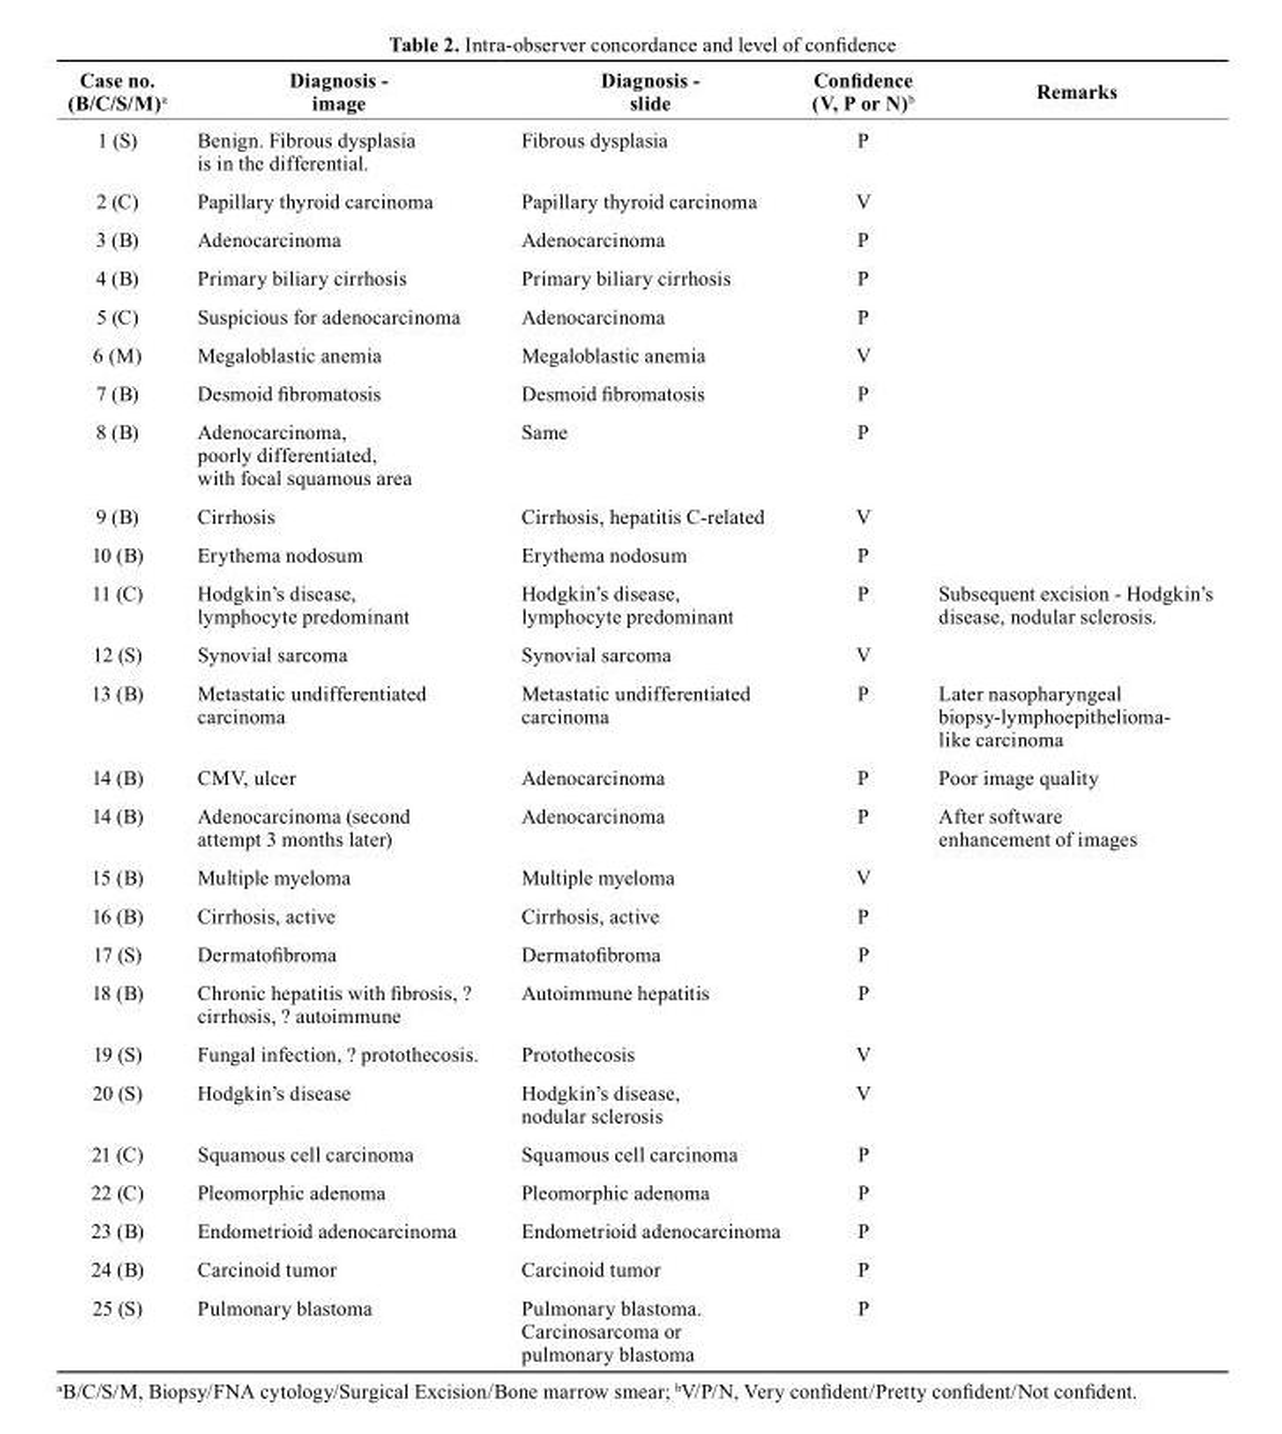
<table><thead><tr><td>case no. (b/c/s/M)<sup>a</sup></td><td>diagnosis - image</td><td>diagnosis - slide</td><td>Confidence (V, P or n)<sup>b</sup></td><td>remarks</td></tr></thead><tbody><tr><td>1 (S)</td><td>Benign. Fibrous dysplasia is in the differential.</td><td>Fibrous dysplasia</td><td>P</td><td></td></tr><tr><td>2 (C)</td><td>Papillary thyroid carcinoma</td><td>Papillary thyroid carcinoma</td><td>V</td><td></td></tr><tr><td>3 (B)</td><td>Adenocarcinoma</td><td>Adenocarcinoma</td><td>P</td><td></td></tr><tr><td>4 (B)</td><td>Primary biliary cirrhosis</td><td>Primary biliary cirrhosis</td><td>P</td><td></td></tr><tr><td>5 (C)</td><td>Suspicious for adenocarcinoma</td><td>Adenocarcinoma</td><td>P</td><td></td></tr><tr><td>6 (M)</td><td>Megaloblastic anemia</td><td>Megaloblastic anemia</td><td>V</td><td></td></tr><tr><td>7 (B)</td><td>Desmoid fibromatosis</td><td>Desmoid fibromatosis</td><td>P</td><td></td></tr><tr><td>8 (B)</td><td>Adenocarcinoma, poorly differentiated, with focal squamous area</td><td>Same</td><td>P</td><td></td></tr><tr><td>9 (B)</td><td>Cirrhosis</td><td>Cirrhosis, hepatitis C-related</td><td>V</td><td></td></tr><tr><td>10 (B)</td><td>Erythema nodosum</td><td>Erythema nodosum</td><td>P</td><td></td></tr><tr><td>11 (C)</td><td>Hodgkin’s disease, lymphocyte predominant</td><td>Hodgkin’s disease, lymphocyte predominant</td><td>P</td><td>Subsequent excision - Hodgkin’s disease, nodular sclerosis.</td></tr><tr><td>12 (S)</td><td>Synovial sarcoma</td><td>Synovial sarcoma</td><td>V</td><td></td></tr><tr><td>13 (B)</td><td>Metastatic undifferentiated carcinoma</td><td>Metastatic undifferentiated carcinoma</td><td>P</td><td>Later nasopharyngeal biopsy-lymphoepithelioma- like carcinoma</td></tr><tr><td>14 (B)</td><td>CMV, ulcer</td><td>Adenocarcinoma</td><td>P</td><td>Poor image quality</td></tr><tr><td>14 (B)</td><td>Adenocarcinoma (second attempt 3 months later)</td><td>Adenocarcinoma</td><td>P</td><td>After software enhancement of images</td></tr><tr><td>15 (B)</td><td>Multiple myeloma</td><td>Multiple myeloma</td><td>V</td><td></td></tr><tr><td>16 (B)</td><td>Cirrhosis, active</td><td>Cirrhosis, active</td><td>P</td><td></td></tr><tr><td>17 (S)</td><td>Dermatofibroma</td><td>Dermatofibroma</td><td>P</td><td></td></tr><tr><td>18 (B)</td><td>Chronic hepatitis with fibrosis, ? cirrhosis, ? autoimmune</td><td>Autoimmune hepatitis</td><td>P</td><td></td></tr><tr><td>19 (S)</td><td>Fungal infection, ? protothecosis.</td><td>Protothecosis</td><td>V</td><td></td></tr><tr><td>20 (S)</td><td>Hodgkin’s disease</td><td>Hodgkin’s disease, nodular sclerosis</td><td>V</td><td></td></tr><tr><td>21 (C)</td><td>Squamous cell carcinoma</td><td>Squamous cell carcinoma</td><td>P</td><td></td></tr><tr><td>22 (C)</td><td>Pleomorphic adenoma</td><td>Pleomorphic adenoma</td><td>P</td><td></td></tr><tr><td>23 (B)</td><td>Endometrioid adenocarcinoma</td><td>Endometrioid adenocarcinoma</td><td>P</td><td></td></tr><tr><td>24 (B)</td><td>Carcinoid tumor</td><td>Carcinoid tumor</td><td>P</td><td></td></tr><tr><td>25 (S)</td><td>Pulmonary blastoma</td><td>Pulmonary blastoma. Carcinosarcoma or pulmonary blastoma</td><td>P</td><td></td></tr></tbody></table>